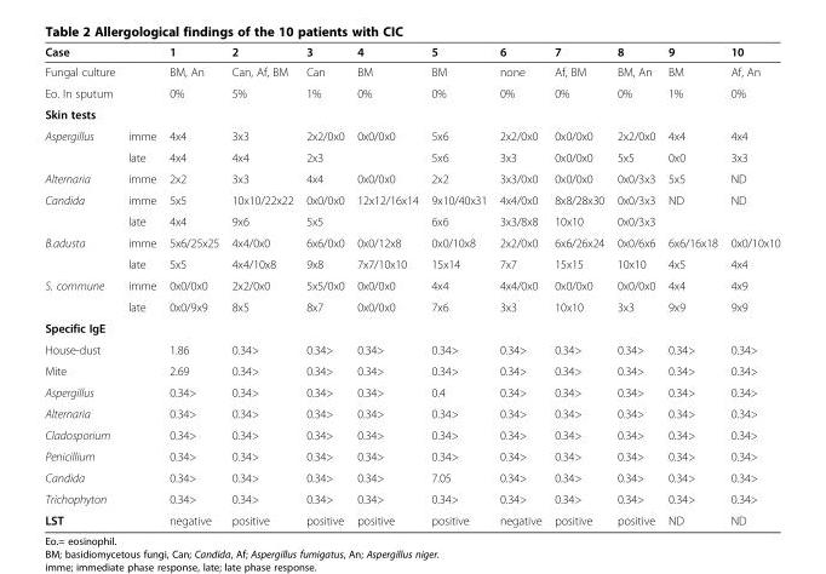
<table><thead><tr><td>Case</td><td></td><td>1</td><td>2</td><td>3</td><td>4</td><td>5</td><td>6</td><td>7</td><td>8</td><td>9</td><td>10</td></tr></thead><tbody><tr><td>Fungal culture</td><td></td><td>BM, An</td><td>Can, Af, BM</td><td>Can</td><td>BM</td><td>BM</td><td>none</td><td>Af, BM</td><td>BM, An</td><td>BM</td><td>Af, An</td></tr><tr><td>Eo. In sputum</td><td></td><td>0%</td><td>5%</td><td>1%</td><td>0%</td><td>0%</td><td>0%</td><td>0%</td><td>0%</td><td>1%</td><td>0%</td></tr><tr><td colspan="12">Skin tests</td></tr><tr><td rowspan="2">Aspergillus</td><td>imme</td><td>4x4</td><td>3x3</td><td>2x2/0x0</td><td>0x0/0x0</td><td>5x6</td><td>2x2/0x0</td><td>0x0/0x0</td><td>2x2/0x0</td><td>4x4</td><td>4x4</td></tr><tr><td>late</td><td>4x4</td><td>4x4</td><td>2x3</td><td></td><td>5x6</td><td>3x3</td><td>0x0/0x0</td><td>5x5</td><td>0x0</td><td>3x3</td></tr><tr><td>Alternaria</td><td>imme</td><td>2x2</td><td>3x3</td><td>4x4</td><td>0x0/0x0</td><td>2x2</td><td>3x3/0x0</td><td>0x0/0x0</td><td>0x0/3x3</td><td>5x5</td><td>ND</td></tr><tr><td rowspan="2">Candida</td><td>imme</td><td>5x5</td><td>10x10/22x22</td><td>0x0/0x0</td><td>12x12/16x14</td><td>9x10/40x31</td><td>4x4/0x0</td><td>8x8/28x30</td><td>0x0/3x3</td><td>ND</td><td>ND</td></tr><tr><td>late</td><td>4x4</td><td>9x6</td><td>5x5</td><td></td><td>6x6</td><td>3x3/8x8</td><td>10x10</td><td>0x0/3x3</td><td></td><td></td></tr><tr><td rowspan="2">B.adusta</td><td>imme</td><td>5x6/25x25</td><td>4x4/0x0</td><td>6x6/0x0</td><td>0x0/12x8</td><td>0x0/10x8</td><td>2x2/0x0</td><td>6x6/26x24</td><td>0x0/6x6</td><td>6x6/16x18</td><td>0x0/10x10</td></tr><tr><td>late</td><td>5x5</td><td>4x4/10x8</td><td>9x8</td><td>7x7/10x10</td><td>15x14</td><td>7x7</td><td>15x15</td><td>10x10</td><td>4x5</td><td>4x4</td></tr><tr><td rowspan="2">S. commune</td><td>imme</td><td>0x0/0x0</td><td>2x2/0x0</td><td>5x5/0x0</td><td>0x0/0x0</td><td>4x4</td><td>4x4/0x0</td><td>0x0/0x0</td><td>0x0/0x0</td><td>4x4</td><td>4x9</td></tr><tr><td>late</td><td>0x0/9x9</td><td>8x5</td><td>8x7</td><td>0x0/0x0</td><td>7x6</td><td>3x3</td><td>10x10</td><td>3x3</td><td>9x9</td><td>9x9</td></tr><tr><td colspan="12">Specific IgE</td></tr><tr><td>House-dust</td><td></td><td>1.86</td><td>0.34&gt;</td><td>0.34&gt;</td><td>0.34&gt;</td><td>0.34&gt;</td><td>0.34&gt;</td><td>0.34&gt;</td><td>0.34&gt;</td><td>0.34&gt;</td><td>0.34&gt;</td></tr><tr><td>Mite</td><td></td><td>2.69</td><td>0.34&gt;</td><td>0.34&gt;</td><td>0.34&gt;</td><td>0.34&gt;</td><td>0.34&gt;</td><td>0.34&gt;</td><td>0.34&gt;</td><td>0.34&gt;</td><td>0.34&gt;</td></tr><tr><td>Aspergillus</td><td></td><td>0.34&gt;</td><td>0.34&gt;</td><td>0.34&gt;</td><td>0.34&gt;</td><td>0.4</td><td>0.34&gt;</td><td>0.34&gt;</td><td>0.34&gt;</td><td>0.34&gt;</td><td>0.34&gt;</td></tr><tr><td>Alternaria</td><td></td><td>0.34&gt;</td><td>0.34&gt;</td><td>0.34&gt;</td><td>0.34&gt;</td><td>0.34&gt;</td><td>0.34&gt;</td><td>0.34&gt;</td><td>0.34&gt;</td><td>0.34&gt;</td><td>0.34&gt;</td></tr><tr><td>Cladosporium</td><td></td><td>0.34&gt;</td><td>0.34&gt;</td><td>0.34&gt;</td><td>0.34&gt;</td><td>0.34&gt;</td><td>0.34&gt;</td><td>0.34&gt;</td><td>0.34&gt;</td><td>0.34&gt;</td><td>0.34&gt;</td></tr><tr><td>Penicillium</td><td></td><td>0.34&gt;</td><td>0.34&gt;</td><td>0.34&gt;</td><td>0.34&gt;</td><td>0.34&gt;</td><td>0.34&gt;</td><td>0.34&gt;</td><td>0.34&gt;</td><td>0.34&gt;</td><td>0.34&gt;</td></tr><tr><td>Candida</td><td></td><td>0.34&gt;</td><td>0.34&gt;</td><td>0.34&gt;</td><td>0.34&gt;</td><td>7.05</td><td>0.34&gt;</td><td>0.34&gt;</td><td>0.34&gt;</td><td>0.34&gt;</td><td>0.34&gt;</td></tr><tr><td>Trichophyton</td><td></td><td>0.34&gt;</td><td>0.34&gt;</td><td>0.34&gt;</td><td>0.34&gt;</td><td>0.34&gt;</td><td>0.34&gt;</td><td>0.34&gt;</td><td>0.34&gt;</td><td>0.34&gt;</td><td>0.34&gt;</td></tr><tr><td>LST</td><td></td><td>negative</td><td>positive</td><td>positive</td><td>positive</td><td>positive</td><td>negative</td><td>positive</td><td>positive</td><td>ND</td><td>ND</td></tr></tbody></table>